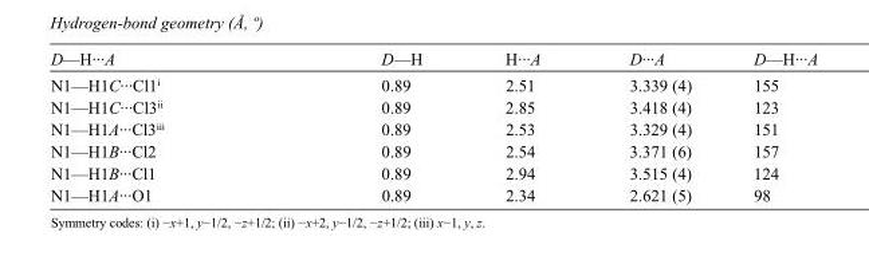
<table><tbody><tr><td>D—H···A</td><td>D—H</td><td>H···A</td><td>D···A</td><td>D—H···A</td></tr><tr><td>N1—H1C···Cl1<sup>i</sup></td><td>0.89</td><td>2.51</td><td>3.339 (4)</td><td>155</td></tr><tr><td>N1—H1C···Cl3<sup>ii</sup></td><td>0.89</td><td>2.85</td><td>3.418 (4)</td><td>123</td></tr><tr><td>N1—H1A···Cl3<sup>iii</sup></td><td>0.89</td><td>2.53</td><td>3.329 (4)</td><td>151</td></tr><tr><td>N1—H1B···Cl2</td><td>0.89</td><td>2.54</td><td>3.371 (6)</td><td>157</td></tr><tr><td>N1—H1B···Cl1</td><td>0.89</td><td>2.94</td><td>3.515 (4)</td><td>124</td></tr><tr><td>N1—H1A···O1</td><td>0.89</td><td>2.34</td><td>2.621 (5)</td><td>98</td></tr></tbody></table>